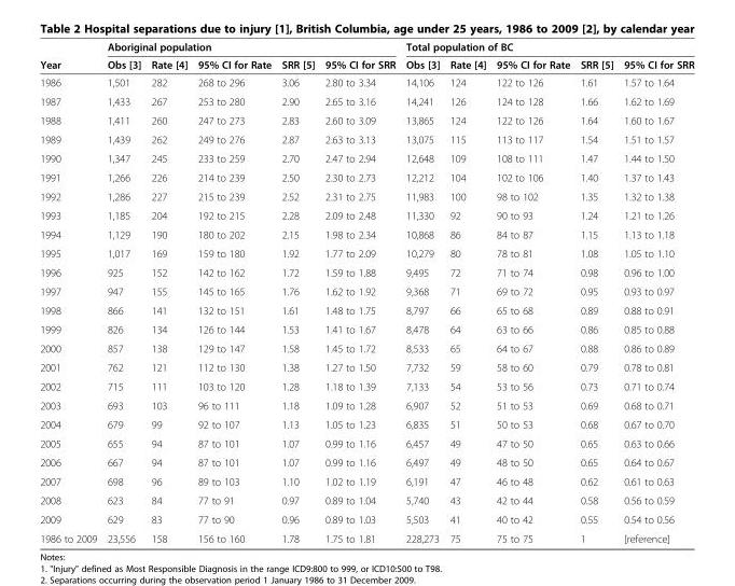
<table><thead><tr><td rowspan="2">Year</td><td colspan="5">Aboriginal population</td><td colspan="5">Total population of BC</td></tr><tr><td>Obs [3]</td><td>Rate [4]</td><td>95% CI for Rate</td><td>SRR [5]</td><td>95% CI for SRR</td><td>Obs [3]</td><td>Rate [4]</td><td>95% CI for Rate</td><td>SRR [5]</td><td>95% CI for SRR</td></tr></thead><tbody><tr><td>1986</td><td>1,501</td><td>282</td><td>268 to 296</td><td>3.06</td><td>2.80 to 3.34</td><td>14,106</td><td>124</td><td>122 to 126</td><td>1.61</td><td>1.57 to 1.64</td></tr><tr><td>1987</td><td>1,433</td><td>267</td><td>253 to 280</td><td>2.90</td><td>2.65 to 3.16</td><td>14,241</td><td>126</td><td>124 to 128</td><td>1.66</td><td>1.62 to 1.69</td></tr><tr><td>1988</td><td>1,411</td><td>260</td><td>247 to 273</td><td>2.83</td><td>2.60 to 3.09</td><td>13,865</td><td>124</td><td>122 to 126</td><td>1.64</td><td>1.60 to 1.67</td></tr><tr><td>1989</td><td>1,439</td><td>262</td><td>249 to 276</td><td>2.87</td><td>2.63 to 3.13</td><td>13,075</td><td>115</td><td>113 to 117</td><td>1.54</td><td>1.51 to 1.57</td></tr><tr><td>1990</td><td>1,347</td><td>245</td><td>233 to 259</td><td>2.70</td><td>2.47 to 2.94</td><td>12,648</td><td>109</td><td>108 to 111</td><td>1.47</td><td>1.44 to 1.50</td></tr><tr><td>1991</td><td>1,266</td><td>226</td><td>214 to 239</td><td>2.50</td><td>2.30 to 2.73</td><td>12,212</td><td>104</td><td>102 to 106</td><td>1.40</td><td>1.37 to 1.43</td></tr><tr><td>1992</td><td>1,286</td><td>227</td><td>215 to 239</td><td>2.52</td><td>2.31 to 2.75</td><td>11,983</td><td>100</td><td>98 to 102</td><td>1.35</td><td>1.32 to 1.38</td></tr><tr><td>1993</td><td>1,185</td><td>204</td><td>192 to 215</td><td>2.28</td><td>2.09 to 2.48</td><td>11,330</td><td>92</td><td>90 to 93</td><td>1.24</td><td>1.21 to 1.26</td></tr><tr><td>1994</td><td>1,129</td><td>190</td><td>180 to 202</td><td>2.15</td><td>1.98 to 2.34</td><td>10,868</td><td>86</td><td>84 to 87</td><td>1.15</td><td>1.13 to 1.18</td></tr><tr><td>1995</td><td>1,017</td><td>169</td><td>159 to 180</td><td>1.92</td><td>1.77 to 2.09</td><td>10,279</td><td>80</td><td>78 to 81</td><td>1.08</td><td>1.05 to 1.10</td></tr><tr><td>1996</td><td>925</td><td>152</td><td>142 to 162</td><td>1.72</td><td>1.59 to 1.88</td><td>9,495</td><td>72</td><td>71 to 74</td><td>0.98</td><td>0.96 to 1.00</td></tr><tr><td>1997</td><td>947</td><td>155</td><td>145 to 165</td><td>1.76</td><td>1.62 to 1.92</td><td>9,368</td><td>71</td><td>69 to 72</td><td>0.95</td><td>0.93 to 0.97</td></tr><tr><td>1998</td><td>866</td><td>141</td><td>132 to 151</td><td>1.61</td><td>1.48 to 1.75</td><td>8,797</td><td>66</td><td>65 to 68</td><td>0.89</td><td>0.88 to 0.91</td></tr><tr><td>1999</td><td>826</td><td>134</td><td>126 to 144</td><td>1.53</td><td>1.41 to 1.67</td><td>8,478</td><td>64</td><td>63 to 66</td><td>0.86</td><td>0.85 to 0.88</td></tr><tr><td>2000</td><td>857</td><td>138</td><td>129 to 147</td><td>1.58</td><td>1.45 to 1.72</td><td>8,533</td><td>65</td><td>64 to 67</td><td>0.88</td><td>0.86 to 0.89</td></tr><tr><td>2001</td><td>762</td><td>121</td><td>112 to 130</td><td>1.38</td><td>1.27 to 1.50</td><td>7,732</td><td>59</td><td>58 to 60</td><td>0.79</td><td>0.78 to 0.81</td></tr><tr><td>2002</td><td>715</td><td>111</td><td>103 to 120</td><td>1.28</td><td>1.18 to 1.39</td><td>7,133</td><td>54</td><td>53 to 56</td><td>0.73</td><td>0.71 to 0.74</td></tr><tr><td>2003</td><td>693</td><td>103</td><td>96 to 111</td><td>1.18</td><td>1.09 to 1.28</td><td>6,907</td><td>52</td><td>51 to 53</td><td>0.69</td><td>0.68 to 0.71</td></tr><tr><td>2004</td><td>679</td><td>99</td><td>92 to 107</td><td>1.13</td><td>1.05 to 1.23</td><td>6,835</td><td>51</td><td>50 to 53</td><td>0.68</td><td>0.67 to 0.70</td></tr><tr><td>2005</td><td>655</td><td>94</td><td>87 to 101</td><td>1.07</td><td>0.99 to 1.16</td><td>6,457</td><td>49</td><td>47 to 50</td><td>0.65</td><td>0.63 to 0.66</td></tr><tr><td>2006</td><td>667</td><td>94</td><td>87 to 101</td><td>1.07</td><td>0.99 to 1.16</td><td>6,497</td><td>49</td><td>48 to 50</td><td>0.65</td><td>0.64 to 0.67</td></tr><tr><td>2007</td><td>698</td><td>96</td><td>89 to 103</td><td>1.10</td><td>1.02 to 1.19</td><td>6,191</td><td>47</td><td>46 to 48</td><td>0.62</td><td>0.61 to 0.63</td></tr><tr><td>2008</td><td>623</td><td>84</td><td>77 to 91</td><td>0.97</td><td>0.89 to 1.04</td><td>5,740</td><td>43</td><td>42 to 44</td><td>0.58</td><td>0.56 to 0.59</td></tr><tr><td>2009</td><td>629</td><td>83</td><td>77 to 90</td><td>0.96</td><td>0.89 to 1.03</td><td>5,503</td><td>41</td><td>40 to 42</td><td>0.55</td><td>0.54 to 0.56</td></tr><tr><td>1986 to 2009</td><td>23,556</td><td>158</td><td>156 to 160</td><td>1.78</td><td>1.75 to 1.81</td><td>228,273</td><td>75</td><td>75 to 75</td><td>1</td><td>[reference]</td></tr></tbody></table>